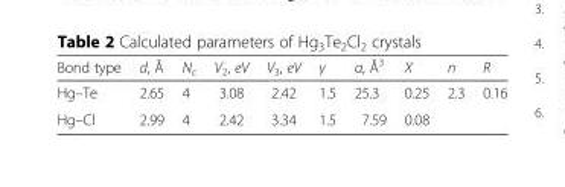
<table><thead><tr><td>Bond type</td><td>d, Å</td><td>N<sub>c</sub></td><td>V<sub>2</sub>, eV</td><td>V<sub>3</sub>, eV</td><td>γ</td><td>α, Å<sup>3</sup></td><td>Χ</td><td>n</td><td>R</td></tr></thead><tbody><tr><td>Hg–Te</td><td>2.65</td><td>4</td><td>3.08</td><td>2.42</td><td>1.5</td><td>25.3</td><td>0.25</td><td rowspan="2">2.3</td><td rowspan="2">0.16</td></tr><tr><td>Hg–Cl</td><td>2.99</td><td>4</td><td>2.42</td><td>3.34</td><td>1.5</td><td>7.59</td><td>0.08</td></tr></tbody></table>